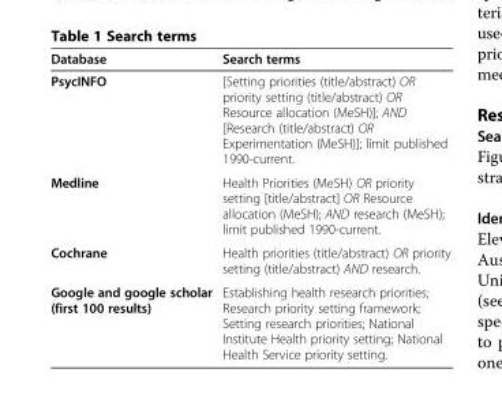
<table><thead><tr><td>Database</td><td>Search terms</td></tr></thead><tbody><tr><td>PsycINFO</td><td>[Setting priorities (title/abstract) OR priority setting (title/abstract) OR Resource allocation (MeSH)]; AND [Research (title/abstract) OR Experimentation (MeSH)]; limit published 1990-current.</td></tr><tr><td>Medline</td><td>Health Priorities (MeSH) OR priority setting [title/abstract] OR Resource allocation (MeSH); AND research (MeSH); limit published 1990-current.</td></tr><tr><td>Cochrane</td><td>Health priorities (title/abstract) OR priority setting (title/abstract) AND research.</td></tr><tr><td>Google and google scholar (first 100 results)</td><td>Establishing health research priorities; Research priority setting framework; Setting research priorities; National Institute Health priority setting; National Health Service priority setting.</td></tr></tbody></table>